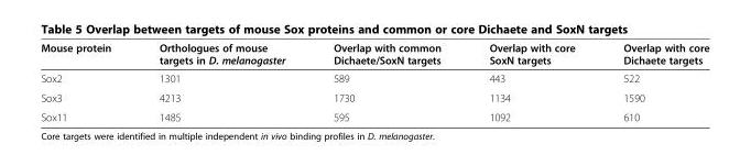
<table><thead><tr><td>Mouse protein</td><td>Orthologues of mouse targets in D. melanogaster</td><td>Overlap with common Dichaete/SoxN targets</td><td>Overlap with core SoxN targets</td><td>Overlap with core Dichaete targets</td></tr></thead><tbody><tr><td>Sox2</td><td>1301</td><td>589</td><td>443</td><td>522</td></tr><tr><td>Sox3</td><td>4213</td><td>1730</td><td>1134</td><td>1590</td></tr><tr><td>Sox11</td><td>1485</td><td>595</td><td>1092</td><td>610</td></tr></tbody></table>